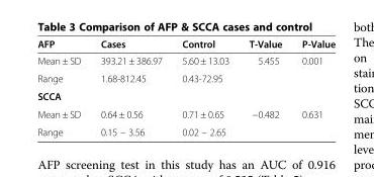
<table><thead><tr><td>AFP</td><td>Cases</td><td>Control</td><td>T-Value</td><td>P-Value</td></tr></thead><tbody><tr><td>Mean ± SD</td><td>393.21 ± 386.97</td><td>5.60 ± 13.03</td><td>5.455</td><td>0.001</td></tr><tr><td>Range</td><td>1.68-812.45</td><td>0.43-72.95</td><td></td><td></td></tr><tr><td colspan="5">SCCA</td></tr><tr><td>Mean ± SD</td><td>0.64 ± 0.56</td><td>0.71 ± 0.65</td><td>−0.482</td><td>0.631</td></tr><tr><td>Range</td><td>0.15 – 3.56</td><td>0.02 – 2.65</td><td></td><td></td></tr></tbody></table>